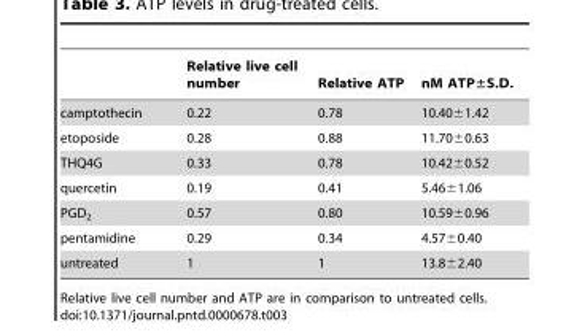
<table><thead><tr><td></td><td>Relative live cell number</td><td>Relative ATP</td><td>nM ATP±S.D.</td></tr></thead><tbody><tr><td>camptothecin</td><td>0.22</td><td>0.78</td><td>10.40±1.42</td></tr><tr><td>etoposide</td><td>0.28</td><td>0.88</td><td>11.70±0.63</td></tr><tr><td>THQ4G</td><td>0.33</td><td>0.78</td><td>10.42±0.52</td></tr><tr><td>quercetin</td><td>0.19</td><td>0.41</td><td>5.46±1.06</td></tr><tr><td>PGD<sub>2</sub></td><td>0.57</td><td>0.80</td><td>10.59±0.96</td></tr><tr><td>pentamidine</td><td>0.29</td><td>0.34</td><td>4.57±0.40</td></tr><tr><td>untreated</td><td>1</td><td>1</td><td>13.8±2.40</td></tr></tbody></table>